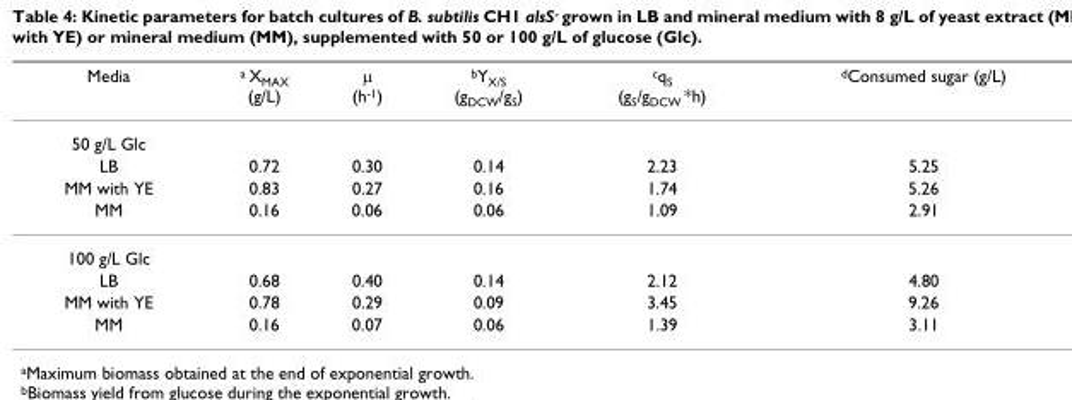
<table><thead><tr><td>Media</td><td><sup>a</sup> X<sub>MAX</sub> (g/L)</td><td>μ (h<sup>-1</sup>)</td><td><sup>b</sup>Y<sub>X/S</sub> (g<sub>DCW</sub>/g<sub>S</sub>)</td><td><sup>c</sup>q<sub>S</sub> (g<sub>S</sub>/g<sub>DCW</sub> *h)</td><td><sup>d</sup>Consumed sugar (g/L)</td></tr></thead><tbody><tr><td colspan="6">50 g/L Glc</td></tr><tr><td>LB</td><td>0.72</td><td>0.30</td><td>0.14</td><td>2.23</td><td>5.25</td></tr><tr><td>MM with YE</td><td>0.83</td><td>0.27</td><td>0.16</td><td>1.74</td><td>5.26</td></tr><tr><td>MM</td><td>0.16</td><td>0.06</td><td>0.06</td><td>1.09</td><td>2.91</td></tr><tr><td colspan="6">100 g/L Glc</td></tr><tr><td>LB</td><td>0.68</td><td>0.40</td><td>0.14</td><td>2.12</td><td>4.80</td></tr><tr><td>MM with YE</td><td>0.78</td><td>0.29</td><td>0.09</td><td>3.45</td><td>9.26</td></tr><tr><td>MM</td><td>0.16</td><td>0.07</td><td>0.06</td><td>1.39</td><td>3.11</td></tr></tbody></table>